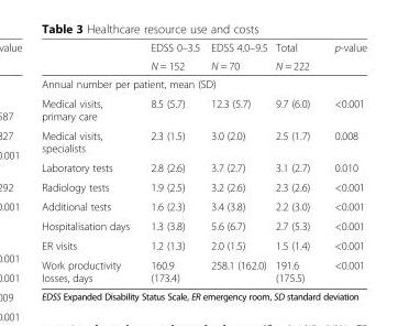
<table><thead><tr><td rowspan="2"></td><td rowspan="2">EDSS 0–3.5 N = 152</td><td rowspan="2">EDSS 4.0–9.5 N = 70</td><td rowspan="2">Total N = 222</td><td rowspan="2">p-value</td></tr><tr></tr></thead><tbody><tr><td colspan="5">Annual number per patient, mean (SD)</td></tr><tr><td>Medical visits, primary care</td><td>8.5 (5.7)</td><td>12.3 (5.7)</td><td>9.7 (6.0)</td><td>&lt;0.001</td></tr><tr><td>Medical visits, specialists</td><td>2.3 (1.5)</td><td>3.0 (2.0)</td><td>2.5 (1.7)</td><td>0.008</td></tr><tr><td>Laboratory tests</td><td>2.8 (2.6)</td><td>3.7 (2.7)</td><td>3.1 (2.7)</td><td>0.010</td></tr><tr><td>Radiology tests</td><td>1.9 (2.5)</td><td>3.2 (2.6)</td><td>2.3 (2.6)</td><td>&lt;0.001</td></tr><tr><td>Additional tests</td><td>1.6 (2.3)</td><td>3.4 (3.8)</td><td>2.2 (3.0)</td><td>&lt;0.001</td></tr><tr><td>Hospitalisation days</td><td>1.3 (3.8)</td><td>5.6 (6.7)</td><td>2.7 (5.3)</td><td>&lt;0.001</td></tr><tr><td>ER visits</td><td>1.2 (1.3)</td><td>2.0 (1.5)</td><td>1.5 (1.4)</td><td>&lt;0.001</td></tr><tr><td>Work productivity losses, days</td><td>160.9 (173.4)</td><td>258.1 (162.0)</td><td>191.6 (175.5)</td><td>&lt;0.001</td></tr></tbody></table>